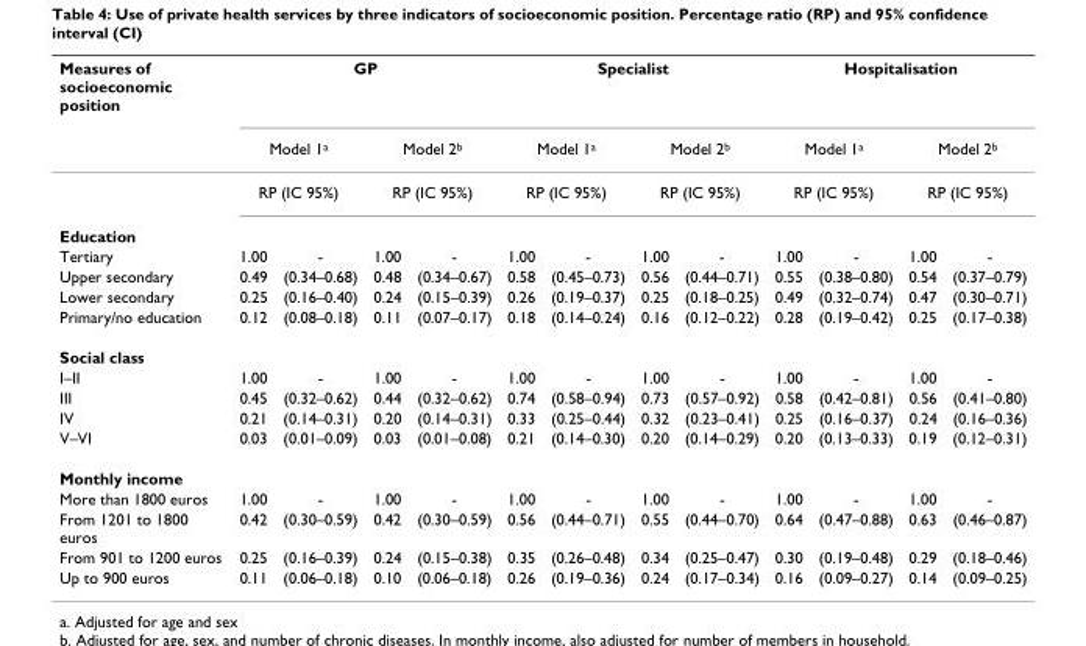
<table><thead><tr><td rowspan="4">Measures of socioeconomic position Education</td><td colspan="4">GP</td><td colspan="4">Specialist</td><td colspan="4">Hospitalisation</td></tr><tr><td rowspan="2" colspan="2">Model 1<sup>a</sup> RP (IC 95%)</td><td rowspan="2" colspan="2">Model 2<sup>b</sup> RP (IC 95%)</td><td rowspan="2" colspan="2">Model 1<sup>a</sup> RP (IC 95%)</td><td rowspan="2" colspan="2">Model 2<sup>b</sup> RP (IC 95%)</td><td rowspan="2" colspan="2">Model 1<sup>a</sup> RP (IC 95%)</td><td rowspan="2" colspan="2">Model 2<sup>b</sup> RP (IC 95%)</td></tr><tr></tr><tr><td></td><td></td><td></td><td></td><td></td><td></td><td></td><td></td><td></td><td></td><td></td><td></td></tr></thead><tbody><tr><td>Tertiary</td><td>1.00</td><td>-</td><td>1.00</td><td>-</td><td>1.00</td><td>-</td><td>1.00</td><td>-</td><td>1.00</td><td>-</td><td>1.00</td><td>-</td></tr><tr><td>Upper secondary</td><td>0.49</td><td>(0.34–0.68)</td><td>0.48</td><td>(0.34–0.67)</td><td>0.58</td><td>(0.45–0.73)</td><td>0.56</td><td>(0.44–0.71)</td><td>0.55</td><td>(0.38–0.80)</td><td>0.54</td><td>(0.37–0.79)</td></tr><tr><td>Lower secondary</td><td>0.25</td><td>(0.16–0.40)</td><td>0.24</td><td>(0.15–0.39)</td><td>0.26</td><td>(0.19–0.37)</td><td>0.25</td><td>(0.18–0.25)</td><td>0.49</td><td>(0.32–0.74)</td><td>0.47</td><td>(0.30–0.71)</td></tr><tr><td>Primary/no education</td><td>0.12</td><td>(0.08–0.18)</td><td>0.11</td><td>(0.07–0.17)</td><td>0.18</td><td>(0.14–0.24)</td><td>0.16</td><td>(0.12–0.22)</td><td>0.28</td><td>(0.19–0.42)</td><td>0.25</td><td>(0.17–0.38)</td></tr><tr><td colspan="13">Social class</td></tr><tr><td>I–II</td><td>1.00</td><td>-</td><td>1.00</td><td>-</td><td>1.00</td><td>-</td><td>1.00</td><td>-</td><td>1.00</td><td>-</td><td>1.00</td><td>-</td></tr><tr><td>III</td><td>0.45</td><td>(0.32–0.62)</td><td>0.44</td><td>(0.32–0.62)</td><td>0.74</td><td>(0.58–0.94)</td><td>0.73</td><td>(0.57–0.92)</td><td>0.58</td><td>(0.42–0.81)</td><td>0.56</td><td>(0.41–0.80)</td></tr><tr><td>IV</td><td>0.21</td><td>(0.14–0.31)</td><td>0.20</td><td>(0.14–0.31)</td><td>0.33</td><td>(0.25–0.44)</td><td>0.32</td><td>(0.23–0.41)</td><td>0.25</td><td>(0.16–0.37)</td><td>0.24</td><td>(0.16–0.36)</td></tr><tr><td>V–VI</td><td>0.03</td><td>(0.01–0.09)</td><td>0.03</td><td>(0.01–0.08)</td><td>0.21</td><td>(0.14–0.30)</td><td>0.20</td><td>(0.14–0.29)</td><td>0.20</td><td>(0.13–0.33)</td><td>0.19</td><td>(0.12–0.31)</td></tr><tr><td colspan="13">Monthly income</td></tr><tr><td>More than 1800 euros</td><td>1.00</td><td>-</td><td>1.00</td><td>-</td><td>1.00</td><td>-</td><td>1.00</td><td>-</td><td>1.00</td><td>-</td><td>1.00</td><td>-</td></tr><tr><td>From 1201 to 1800 euros</td><td>0.42</td><td>(0.30–0.59)</td><td>0.42</td><td>(0.30–0.59)</td><td>0.56</td><td>(0.44–0.71)</td><td>0.55</td><td>(0.44–0.70)</td><td>0.64</td><td>(0.47–0.88)</td><td>0.63</td><td>(0.46–0.87)</td></tr><tr><td>From 901 to 1200 euros</td><td>0.25</td><td>(0.16–0.39)</td><td>0.24</td><td>(0.15–0.38)</td><td>0.35</td><td>(0.26–0.48)</td><td>0.34</td><td>(0.25–0.47)</td><td>0.30</td><td>(0.19–0.48)</td><td>0.29</td><td>(0.18–0.46)</td></tr><tr><td>Up to 900 euros</td><td>0.11</td><td>(0.06–0.18)</td><td>0.10</td><td>(0.06–0.18)</td><td>0.26</td><td>(0.19–0.36)</td><td>0.24</td><td>(0.17–0.34)</td><td>0.16</td><td>(0.09–0.27)</td><td>0.14</td><td>(0.09–0.25)</td></tr></tbody></table>